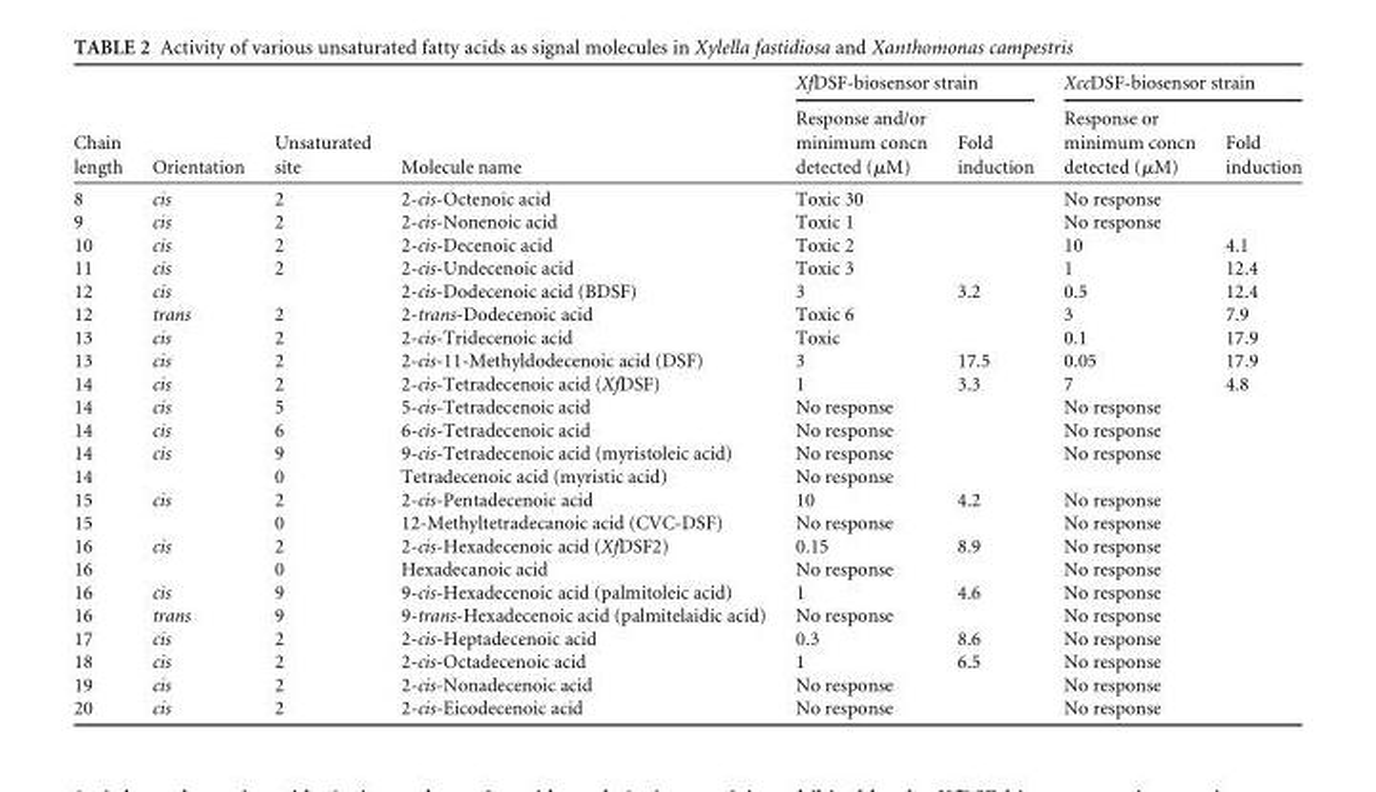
<table><thead><tr><td rowspan="2">Chain length</td><td rowspan="2">Orientation</td><td rowspan="2">Unsaturated site</td><td rowspan="2">Molecule name</td><td colspan="2">XfDSF-biosensor strain</td><td colspan="2">XccDSF-biosensor strain</td></tr><tr><td>Response and/or minimum concn detected (µM)</td><td>Fold induction</td><td>Response or minimum concn detected (µM)</td><td>Fold induction</td></tr></thead><tbody><tr><td>8</td><td>cis</td><td>2</td><td>2-cis-Octenoic acid</td><td>Toxic 30</td><td></td><td>No response</td><td></td></tr><tr><td>9</td><td>cis</td><td>2</td><td>2-cis-Nonenoic acid</td><td>Toxic 1</td><td></td><td>No response</td><td></td></tr><tr><td>10</td><td>cis</td><td>2</td><td>2-cis-Decenoic acid</td><td>Toxic 2</td><td></td><td>10</td><td>4.1</td></tr><tr><td>11</td><td>cis</td><td>2</td><td>2-cis-Undecenoic acid</td><td>Toxic 3</td><td></td><td>1</td><td>12.4</td></tr><tr><td>12</td><td>cis</td><td></td><td>2-cis-Dodecenoic acid (BDSF)</td><td>3</td><td>3.2</td><td>0.5</td><td>12.4</td></tr><tr><td>12</td><td>trans</td><td>2</td><td>2-trans-Dodecenoic acid</td><td>Toxic 6</td><td></td><td>3</td><td>7.9</td></tr><tr><td>13</td><td>cis</td><td>2</td><td>2-cis-Tridecenoic acid</td><td>Toxic</td><td></td><td>0.1</td><td>17.9</td></tr><tr><td>13</td><td>cis</td><td>2</td><td>2-cis-11-Methyldodecenoic acid (DSF)</td><td>3</td><td>17.5</td><td>0.05</td><td>17.9</td></tr><tr><td>14</td><td>cis</td><td>2</td><td>2-cis-Tetradecenoic acid (XfDSF)</td><td>1</td><td>3.3</td><td>7</td><td>4.8</td></tr><tr><td>14</td><td>cis</td><td>5</td><td>5-cis-Tetradecenoic acid</td><td>No response</td><td></td><td>No response</td><td></td></tr><tr><td>14</td><td>cis</td><td>6</td><td>6-cis-Tetradecenoic acid</td><td>No response</td><td></td><td>No response</td><td></td></tr><tr><td>14</td><td>cis</td><td>9</td><td>9-cis-Tetradecenoic acid (myristoleic acid)</td><td>No response</td><td></td><td>No response</td><td></td></tr><tr><td>14</td><td></td><td>0</td><td>Tetradecenoic acid (myristic acid)</td><td>No response</td><td></td><td></td><td></td></tr><tr><td>15</td><td>cis</td><td>2</td><td>2-cis-Pentadecenoic acid</td><td>10</td><td>4.2</td><td>No response</td><td></td></tr><tr><td>15</td><td></td><td>0</td><td>12-Methyltetradecanoic acid (CVC-DSF)</td><td>No response</td><td></td><td>No response</td><td></td></tr><tr><td>16</td><td>cis</td><td>2</td><td>2-cis-Hexadecenoic acid (XfDSF2)</td><td>0.15</td><td>8.9</td><td>No response</td><td></td></tr><tr><td>16</td><td></td><td>0</td><td>Hexadecanoic acid</td><td>No response</td><td></td><td>No response</td><td></td></tr><tr><td>16</td><td>cis</td><td>9</td><td>9-cis-Hexadecenoic acid (palmitoleic acid)</td><td>1</td><td>4.6</td><td>No response</td><td></td></tr><tr><td>16</td><td>trans</td><td>9</td><td>9-trans-Hexadecenoic acid (palmitelaidic acid)</td><td>No response</td><td></td><td>No response</td><td></td></tr><tr><td>17</td><td>cis</td><td>2</td><td>2-cis-Heptadecenoic acid</td><td>0.3</td><td>8.6</td><td>No response</td><td></td></tr><tr><td>18</td><td>cis</td><td>2</td><td>2-cis-Octadecenoic acid</td><td>1</td><td>6.5</td><td>No response</td><td></td></tr><tr><td>19</td><td>cis</td><td>2</td><td>2-cis-Nonadecenoic acid</td><td>No response</td><td></td><td>No response</td><td></td></tr><tr><td>20</td><td>cis</td><td>2</td><td>2-cis-Eicodecenoic acid</td><td>No response</td><td></td><td>No response</td><td></td></tr></tbody></table>